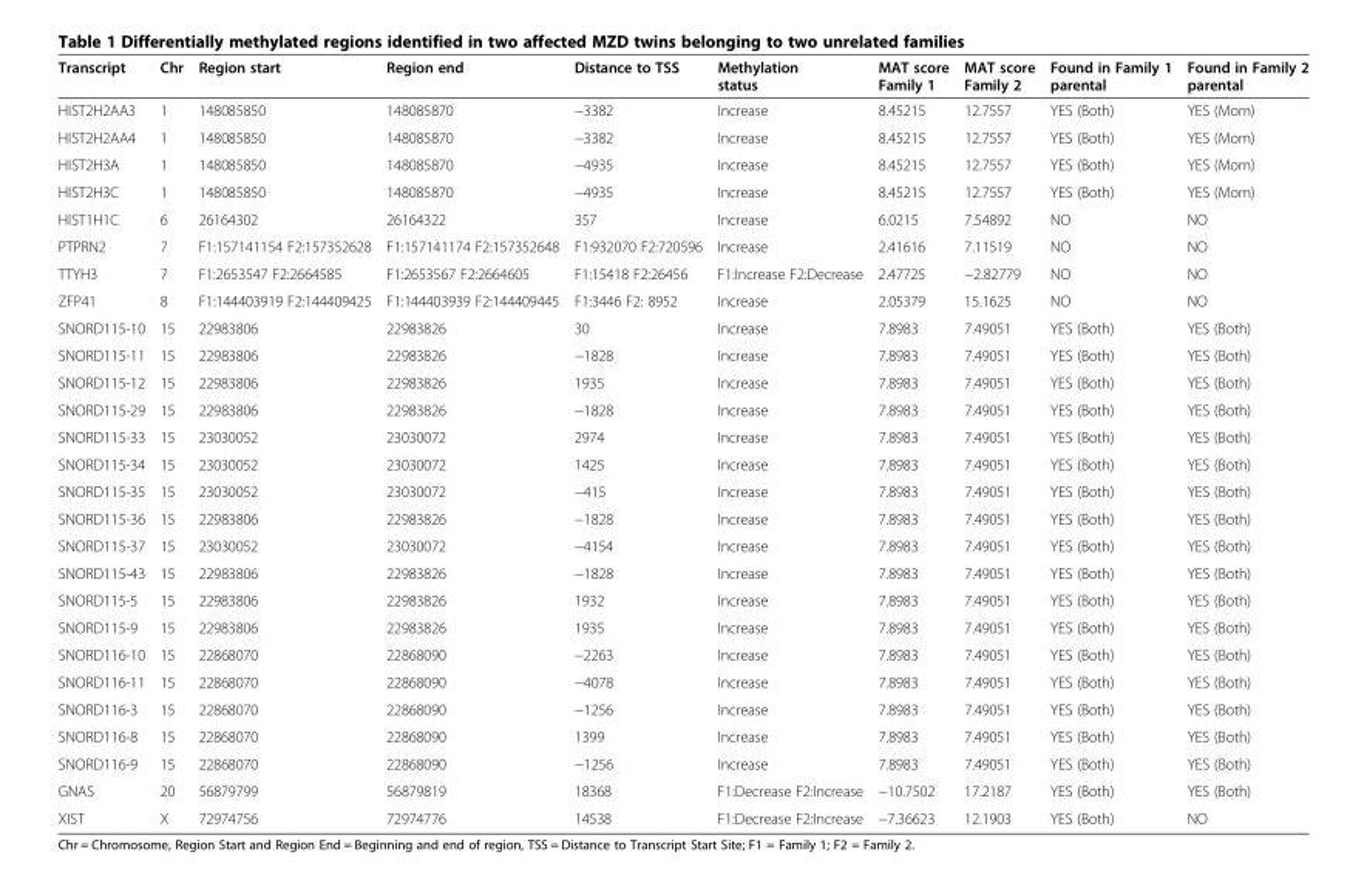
<table><thead><tr><td>Transcript</td><td>Chr</td><td>Region start</td><td>Region end</td><td>Distance to TSS</td><td>Methylation status</td><td>MAT score Family 1</td><td>MAT score Family 2</td><td>Found in Family 1 parental</td><td>Found in Family 2 parental</td></tr></thead><tbody><tr><td>HIST2H2AA3</td><td>1</td><td>148085850</td><td>148085870</td><td>−3382</td><td>Increase</td><td>8.45215</td><td>12.7557</td><td>YES (Both)</td><td>YES (Mom)</td></tr><tr><td>HIST2H2AA4</td><td>1</td><td>148085850</td><td>148085870</td><td>−3382</td><td>Increase</td><td>8.45215</td><td>12.7557</td><td>YES (Both)</td><td>YES (Mom)</td></tr><tr><td>HIST2H3A</td><td>1</td><td>148085850</td><td>148085870</td><td>−4935</td><td>Increase</td><td>8.45215</td><td>12.7557</td><td>YES (Both)</td><td>YES (Mom)</td></tr><tr><td>HIST2H3C</td><td>1</td><td>148085850</td><td>148085870</td><td>−4935</td><td>Increase</td><td>8.45215</td><td>12.7557</td><td>YES (Both)</td><td>YES (Mom)</td></tr><tr><td>HIST1H1C</td><td>6</td><td>26164302</td><td>26164322</td><td>357</td><td>Increase</td><td>6.0215</td><td>7.54892</td><td>NO</td><td>NO</td></tr><tr><td>PTPRN2</td><td>7</td><td>F1:157141154 F2:157352628</td><td>F1:157141174 F2:157352648</td><td>F1:932070 F2:720596</td><td>Increase</td><td>2.41616</td><td>7.11519</td><td>NO</td><td>NO</td></tr><tr><td>TTYH3</td><td>7</td><td>F1:2653547 F2:2664585</td><td>F1:2653567 F2:2664605</td><td>F1:15418 F2:26456</td><td>F1:Increase F2:Decrease</td><td>2.47725</td><td>−2.82779</td><td>NO</td><td>NO</td></tr><tr><td>ZFP41</td><td>8</td><td>F1:144403919 F2:144409425</td><td>F1:144403939 F2:144409445</td><td>F1:3446 F2: 8952</td><td>Increase</td><td>2.05379</td><td>15.1625</td><td>NO</td><td>NO</td></tr><tr><td>SNORD115-10</td><td>15</td><td>22983806</td><td>22983826</td><td>30</td><td>Increase</td><td>7.8983</td><td>7.49051</td><td>YES (Both)</td><td>YES (Both)</td></tr><tr><td>SNORD115-11</td><td>15</td><td>22983806</td><td>22983826</td><td>−1828</td><td>Increase</td><td>7.8983</td><td>7.49051</td><td>YES (Both)</td><td>YES (Both)</td></tr><tr><td>SNORD115-12</td><td>15</td><td>22983806</td><td>22983826</td><td>1935</td><td>Increase</td><td>7.8983</td><td>7.49051</td><td>YES (Both)</td><td>YES (Both)</td></tr><tr><td>SNORD115-29</td><td>15</td><td>22983806</td><td>22983826</td><td>−1828</td><td>Increase</td><td>7.8983</td><td>7.49051</td><td>YES (Both)</td><td>YES (Both)</td></tr><tr><td>SNORD115-33</td><td>15</td><td>23030052</td><td>23030072</td><td>2974</td><td>Increase</td><td>7.8983</td><td>7.49051</td><td>YES (Both)</td><td>YES (Both)</td></tr><tr><td>SNORD115-34</td><td>15</td><td>23030052</td><td>23030072</td><td>1425</td><td>Increase</td><td>7.8983</td><td>7.49051</td><td>YES (Both)</td><td>YES (Both)</td></tr><tr><td>SNORD115-35</td><td>15</td><td>23030052</td><td>23030072</td><td>−415</td><td>Increase</td><td>7.8983</td><td>7.49051</td><td>YES (Both)</td><td>YES (Both)</td></tr><tr><td>SNORD115-36</td><td>15</td><td>22983806</td><td>22983826</td><td>−1828</td><td>Increase</td><td>7.8983</td><td>7.49051</td><td>YES (Both)</td><td>YES (Both)</td></tr><tr><td>SNORD115-37</td><td>15</td><td>23030052</td><td>23030072</td><td>−4154</td><td>Increase</td><td>7.8983</td><td>7.49051</td><td>YES (Both)</td><td>YES (Both)</td></tr><tr><td>SNORD115-43</td><td>15</td><td>22983806</td><td>22983826</td><td>−1828</td><td>Increase</td><td>7.8983</td><td>7.49051</td><td>YES (Both)</td><td>YES (Both)</td></tr><tr><td>SNORD115-5</td><td>15</td><td>22983806</td><td>22983826</td><td>1932</td><td>Increase</td><td>7.8983</td><td>7.49051</td><td>YES (Both)</td><td>YES (Both)</td></tr><tr><td>SNORD115-9</td><td>15</td><td>22983806</td><td>22983826</td><td>1935</td><td>Increase</td><td>7.8983</td><td>7.49051</td><td>YES (Both)</td><td>YES (Both)</td></tr><tr><td>SNORD116-10</td><td>15</td><td>22868070</td><td>22868090</td><td>−2263</td><td>Increase</td><td>7.8983</td><td>7.49051</td><td>YES (Both)</td><td>YES (Both)</td></tr><tr><td>SNORD116-11</td><td>15</td><td>22868070</td><td>22868090</td><td>−4078</td><td>Increase</td><td>7.8983</td><td>7.49051</td><td>YES (Both)</td><td>YES (Both)</td></tr><tr><td>SNORD116-3</td><td>15</td><td>22868070</td><td>22868090</td><td>−1256</td><td>Increase</td><td>7.8983</td><td>7.49051</td><td>YES (Both)</td><td>YES (Both)</td></tr><tr><td>SNORD116-8</td><td>15</td><td>22868070</td><td>22868090</td><td>1399</td><td>Increase</td><td>7.8983</td><td>7.49051</td><td>YES (Both)</td><td>YES (Both)</td></tr><tr><td>SNORD116-9</td><td>15</td><td>22868070</td><td>22868090</td><td>−1256</td><td>Increase</td><td>7.8983</td><td>7.49051</td><td>YES (Both)</td><td>YES (Both)</td></tr><tr><td>GNAS</td><td>20</td><td>56879799</td><td>56879819</td><td>18368</td><td>F1:Decrease F2:Increase</td><td>−10.7502</td><td>17.2187</td><td>YES (Both)</td><td>YES (Both)</td></tr><tr><td>XIST</td><td>X</td><td>72974756</td><td>72974776</td><td>14538</td><td>F1:Decrease F2:Increase</td><td>−7.36623</td><td>12.1903</td><td>YES (Both)</td><td>NO</td></tr></tbody></table>